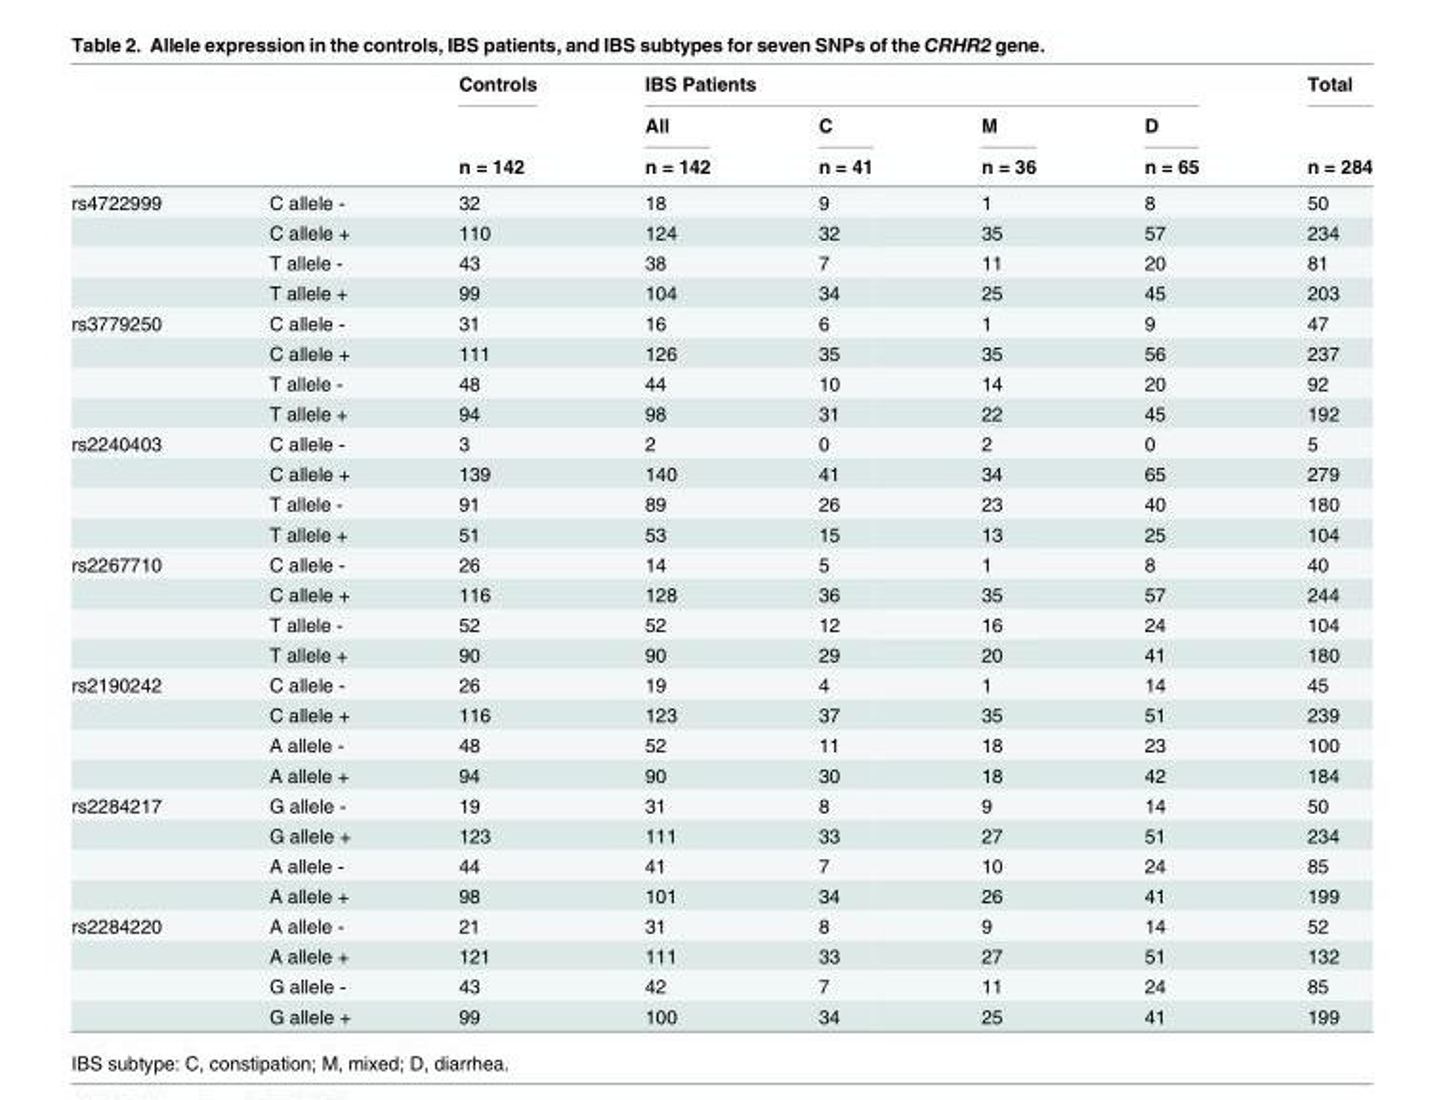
<table><thead><tr><td rowspan="3"></td><td rowspan="3"></td><td rowspan="3">Controls n = 142</td><td colspan="4">IBS Patients</td><td rowspan="3">Total n = 284</td></tr><tr><td rowspan="2">All n = 142</td><td rowspan="2">C n = 41</td><td rowspan="2">M n = 36</td><td rowspan="2">D n = 65</td></tr><tr></tr></thead><tbody><tr><td rowspan="4">rs4722999</td><td>C allele -</td><td>32</td><td>18</td><td>9</td><td>1</td><td>8</td><td>50</td></tr><tr><td>C allele +</td><td>110</td><td>124</td><td>32</td><td>35</td><td>57</td><td>234</td></tr><tr><td>T allele -</td><td>43</td><td>38</td><td>7</td><td>11</td><td>20</td><td>81</td></tr><tr><td>T allele +</td><td>99</td><td>104</td><td>34</td><td>25</td><td>45</td><td>203</td></tr><tr><td rowspan="4">rs3779250</td><td>C allele -</td><td>31</td><td>16</td><td>6</td><td>1</td><td>9</td><td>47</td></tr><tr><td>C allele +</td><td>111</td><td>126</td><td>35</td><td>35</td><td>56</td><td>237</td></tr><tr><td>T allele -</td><td>48</td><td>44</td><td>10</td><td>14</td><td>20</td><td>92</td></tr><tr><td>T allele +</td><td>94</td><td>98</td><td>31</td><td>22</td><td>45</td><td>192</td></tr><tr><td rowspan="4">rs2240403</td><td>C allele -</td><td>3</td><td>2</td><td>0</td><td>2</td><td>0</td><td>5</td></tr><tr><td>C allele +</td><td>139</td><td>140</td><td>41</td><td>34</td><td>65</td><td>279</td></tr><tr><td>T allele -</td><td>91</td><td>89</td><td>26</td><td>23</td><td>40</td><td>180</td></tr><tr><td>T allele +</td><td>51</td><td>53</td><td>15</td><td>13</td><td>25</td><td>104</td></tr><tr><td rowspan="4">rs2267710</td><td>C allele -</td><td>26</td><td>14</td><td>5</td><td>1</td><td>8</td><td>40</td></tr><tr><td>C allele +</td><td>116</td><td>128</td><td>36</td><td>35</td><td>57</td><td>244</td></tr><tr><td>T allele -</td><td>52</td><td>52</td><td>12</td><td>16</td><td>24</td><td>104</td></tr><tr><td>T allele +</td><td>90</td><td>90</td><td>29</td><td>20</td><td>41</td><td>180</td></tr><tr><td rowspan="4">rs2190242</td><td>C allele -</td><td>26</td><td>19</td><td>4</td><td>1</td><td>14</td><td>45</td></tr><tr><td>C allele +</td><td>116</td><td>123</td><td>37</td><td>35</td><td>51</td><td>239</td></tr><tr><td>A allele -</td><td>48</td><td>52</td><td>11</td><td>18</td><td>23</td><td>100</td></tr><tr><td>A allele +</td><td>94</td><td>90</td><td>30</td><td>18</td><td>42</td><td>184</td></tr><tr><td rowspan="4">rs2284217</td><td>G allele -</td><td>19</td><td>31</td><td>8</td><td>9</td><td>14</td><td>50</td></tr><tr><td>G allele +</td><td>123</td><td>111</td><td>33</td><td>27</td><td>51</td><td>234</td></tr><tr><td>A allele -</td><td>44</td><td>41</td><td>7</td><td>10</td><td>24</td><td>85</td></tr><tr><td>A allele +</td><td>98</td><td>101</td><td>34</td><td>26</td><td>41</td><td>199</td></tr><tr><td rowspan="4">rs2284220</td><td>A allele -</td><td>21</td><td>31</td><td>8</td><td>9</td><td>14</td><td>52</td></tr><tr><td>A allele +</td><td>121</td><td>111</td><td>33</td><td>27</td><td>51</td><td>132</td></tr><tr><td>G allele -</td><td>43</td><td>42</td><td>7</td><td>11</td><td>24</td><td>85</td></tr><tr><td>G allele +</td><td>99</td><td>100</td><td>34</td><td>25</td><td>41</td><td>199</td></tr></tbody></table>